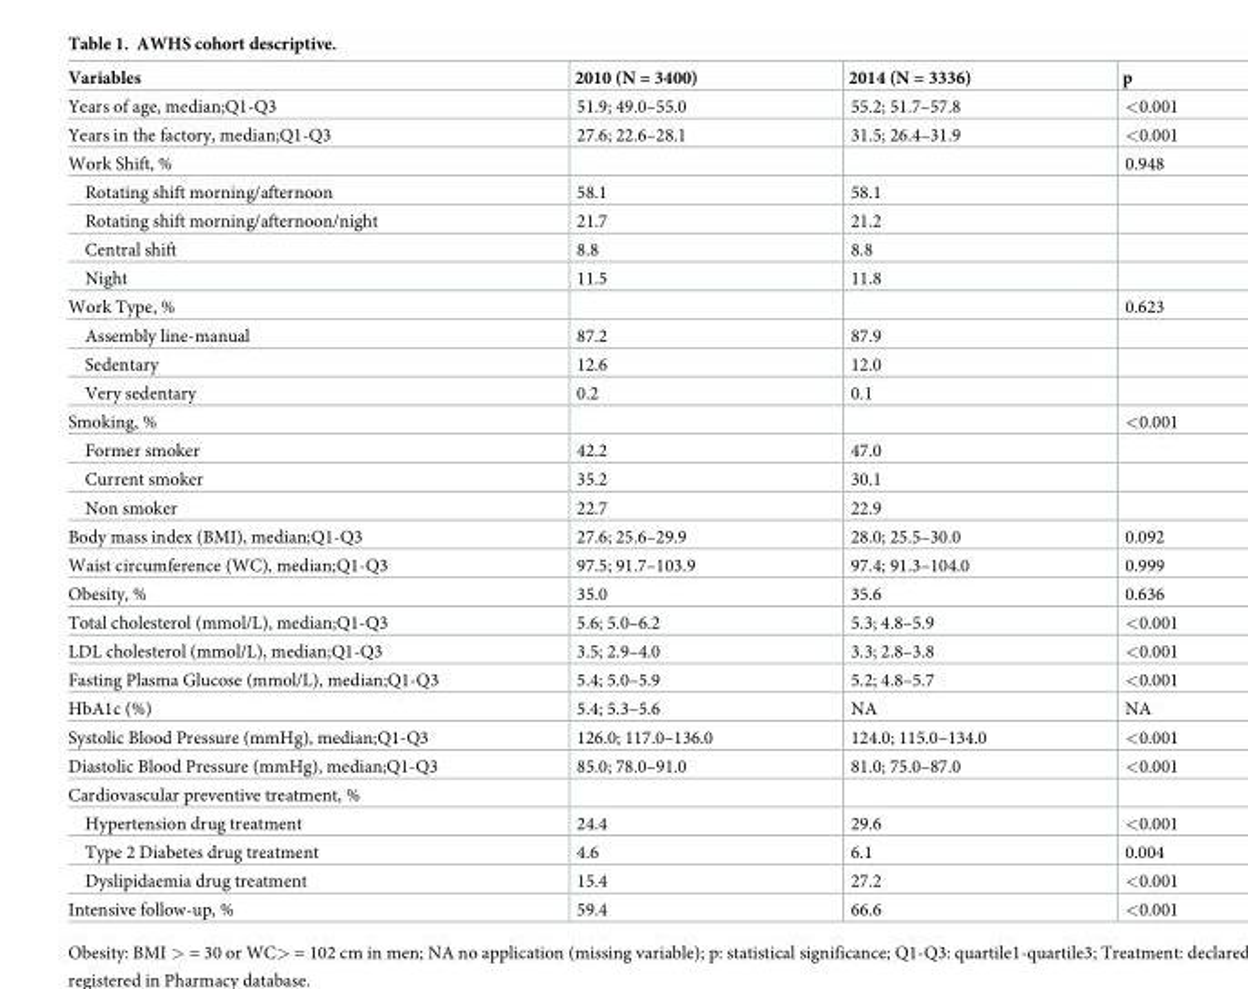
<table><thead><tr><td>Variables</td><td>2010 (N = 3400)</td><td>2014 (N = 3336)</td><td>p</td></tr></thead><tbody><tr><td>Years of age, median;Q1-Q3</td><td>51.9; 49.0–55.0</td><td>55.2; 51.7–57.8</td><td>&lt;0.001</td></tr><tr><td>Years in the factory, median;Q1-Q3</td><td>27.6; 22.6–28.1</td><td>31.5; 26.4–31.9</td><td>&lt;0.001</td></tr><tr><td>Work Shift, %</td><td></td><td></td><td>0.948</td></tr><tr><td>Rotating shift morning/afternoon</td><td>58.1</td><td>58.1</td><td></td></tr><tr><td>Rotating shift morning/afternoon/night</td><td>21.7</td><td>21.2</td><td></td></tr><tr><td>Central shift</td><td>8.8</td><td>8.8</td><td></td></tr><tr><td>Night</td><td>11.5</td><td>11.8</td><td></td></tr><tr><td>Work Type, %</td><td></td><td></td><td>0.623</td></tr><tr><td>Assembly line-manual</td><td>87.2</td><td>87.9</td><td></td></tr><tr><td>Sedentary</td><td>12.6</td><td>12.0</td><td></td></tr><tr><td>Very sedentary</td><td>0.2</td><td>0.1</td><td></td></tr><tr><td>Smoking, %</td><td></td><td></td><td>&lt;0.001</td></tr><tr><td>Former smoker</td><td>42.2</td><td>47.0</td><td></td></tr><tr><td>Current smoker</td><td>35.2</td><td>30.1</td><td></td></tr><tr><td>Non smoker</td><td>22.7</td><td>22.9</td><td></td></tr><tr><td>Body mass index (BMI), median;Q1-Q3</td><td>27.6; 25.6–29.9</td><td>28.0; 25.5–30.0</td><td>0.092</td></tr><tr><td>Waist circumference (WC), median;Q1-Q3</td><td>97.5; 91.7–103.9</td><td>97.4; 91.3–104.0</td><td>0.999</td></tr><tr><td>Obesity, %</td><td>35.0</td><td>35.6</td><td>0.636</td></tr><tr><td>Total cholesterol (mmol/L), median;Q1-Q3</td><td>5.6; 5.0–6.2</td><td>5.3; 4.8–5.9</td><td>&lt;0.001</td></tr><tr><td>LDL cholesterol (mmol/L), median;Q1-Q3</td><td>3.5; 2.9–4.0</td><td>3.3; 2.8–3.8</td><td>&lt;0.001</td></tr><tr><td>Fasting Plasma Glucose (mmol/L), median;Q1-Q3</td><td>5.4; 5.0–5.9</td><td>5.2; 4.8–5.7</td><td>&lt;0.001</td></tr><tr><td>HbA1c (%)</td><td>5.4; 5.3–5.6</td><td>NA</td><td>NA</td></tr><tr><td>Systolic Blood Pressure (mmHg), median;Q1-Q3</td><td>126.0; 117.0–136.0</td><td>124.0; 115.0–134.0</td><td>&lt;0.001</td></tr><tr><td>Diastolic Blood Pressure (mmHg), median;Q1-Q3</td><td>85.0; 78.0–91.0</td><td>81.0; 75.0–87.0</td><td>&lt;0.001</td></tr><tr><td colspan="4">Cardiovascular preventive treatment, %</td></tr><tr><td>Hypertension drug treatment</td><td>24.4</td><td>29.6</td><td>&lt;0.001</td></tr><tr><td>Type 2 Diabetes drug treatment</td><td>4.6</td><td>6.1</td><td>0.004</td></tr><tr><td>Dyslipidaemia drug treatment</td><td>15.4</td><td>27.2</td><td>&lt;0.001</td></tr><tr><td>Intensive follow-up, %</td><td>59.4</td><td>66.6</td><td>&lt;0.001</td></tr></tbody></table>